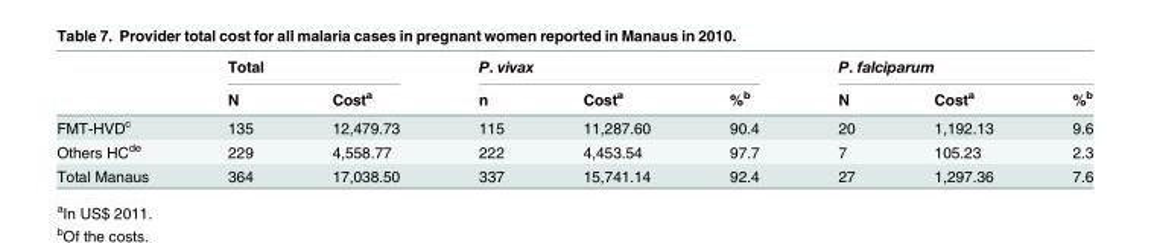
<table><thead><tr><td rowspan="2"></td><td colspan="2">Total</td><td colspan="3">P. vivax</td><td colspan="3">P. falciparum</td></tr><tr><td>N</td><td>Cost<sup>a</sup></td><td>n</td><td>Cost<sup>a</sup></td><td>%<sup>b</sup></td><td>N</td><td>Cost<sup>a</sup></td><td>%<sup>b</sup></td></tr></thead><tbody><tr><td>FMT-HVD<sup>c</sup></td><td>135</td><td>12,479.73</td><td>115</td><td>11,287.60</td><td>90.4</td><td>20</td><td>1,192.13</td><td>9.6</td></tr><tr><td>Others HC<sup>de</sup></td><td>229</td><td>4,558.77</td><td>222</td><td>4,453.54</td><td>97.7</td><td>7</td><td>105.23</td><td>2.3</td></tr><tr><td>Total Manaus</td><td>364</td><td>17,038.50</td><td>337</td><td>15,741.14</td><td>92.4</td><td>27</td><td>1,297.36</td><td>7.6</td></tr></tbody></table>